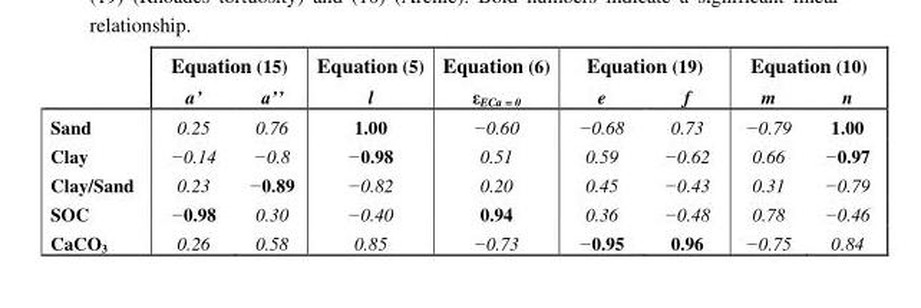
<table><thead><tr><td rowspan="2"></td><td colspan="2">Equation (15)</td><td rowspan="2">Equation (5) l</td><td rowspan="2">Equation (6) ε<sub>ECa = 0</sub></td><td colspan="2">Equation (19)</td><td colspan="2">Equation (10)</td></tr><tr><td>a’</td><td>a’’</td><td>e</td><td>f</td><td>m</td><td>n</td></tr></thead><tbody><tr><td>Sand</td><td>0.25</td><td>0.76</td><td>1.00</td><td>−0.60</td><td>−0.68</td><td>0.73</td><td>−0.79</td><td>1.00</td></tr><tr><td>Clay</td><td>−0.14</td><td>−0.8</td><td>−0.98</td><td>0.51</td><td>0.59</td><td>−0.62</td><td>0.66</td><td>−0.97</td></tr><tr><td>Clay/Sand</td><td>0.23</td><td>−0.89</td><td>−0.82</td><td>0.20</td><td>0.45</td><td>−0.43</td><td>0.31</td><td>−0.79</td></tr><tr><td>SOC</td><td>−0.98</td><td>0.30</td><td>−0.40</td><td>0.94</td><td>0.36</td><td>−0.48</td><td>0.78</td><td>−0.46</td></tr><tr><td>CaCO<sub>3</sub></td><td>0.26</td><td>0.58</td><td>0.85</td><td>−0.73</td><td>−0.95</td><td>0.96</td><td>−0.75</td><td>0.84</td></tr></tbody></table>